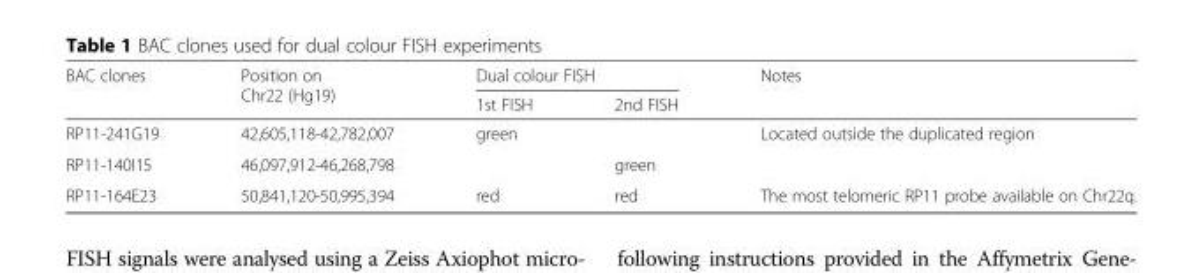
<table><thead><tr><td rowspan="2">BAC clones</td><td rowspan="2">Position on Chr22 (Hg19)</td><td colspan="2">Dual colour FISH</td><td rowspan="2">Notes</td></tr><tr><td>1st FISH</td><td>2nd FISH</td></tr></thead><tbody><tr><td>RP11-241G19</td><td>42,605,118-42,782,007</td><td>green</td><td></td><td>Located outside the duplicated region</td></tr><tr><td>RP11-140I15</td><td>46,097,912-46,268,798</td><td></td><td>green</td><td></td></tr><tr><td>RP11-164E23</td><td>50,841,120-50,995,394</td><td>red</td><td>red</td><td>The most telomeric RP11 probe available on Chr22q.</td></tr></tbody></table>